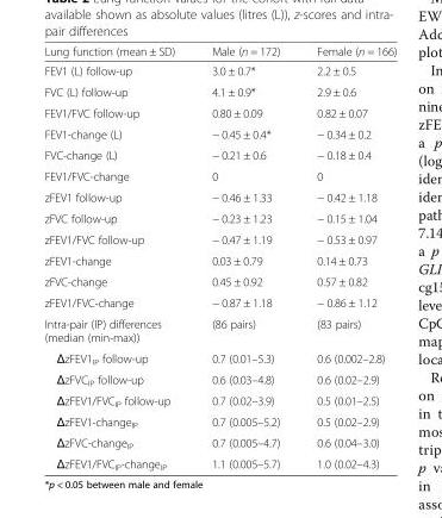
<table><thead><tr><td>Lung function (mean ± SD)</td><td>Male (n = 172)</td><td>Female (n = 166)</td></tr></thead><tbody><tr><td>FEV1 (L) follow-up</td><td>3.0 ± 0.7*</td><td>2.2 ± 0.5</td></tr><tr><td>FVC (L) follow-up</td><td>4.1 ± 0.9*</td><td>2.9 ± 0.6</td></tr><tr><td>FEV1/FVC follow-up</td><td>0.80 ± 0.09</td><td>0.82 ± 0.07</td></tr><tr><td>FEV1-change (L)</td><td>− 0.45 ± 0.4*</td><td>− 0.34 ± 0.2</td></tr><tr><td>FVC-change (L)</td><td>− 0.21 ± 0.6</td><td>− 0.18 ± 0.4</td></tr><tr><td>FEV1/FVC-change</td><td>0</td><td>0</td></tr><tr><td>zFEV1 follow-up</td><td>− 0.46 ± 1.33</td><td>− 0.42 ± 1.18</td></tr><tr><td>zFVC follow-up</td><td>− 0.23 ± 1.23</td><td>− 0.15 ± 1.04</td></tr><tr><td>zFEV1/FVC follow-up</td><td>− 0.47 ± 1.19</td><td>− 0.53 ± 0.97</td></tr><tr><td>zFEV1-change</td><td>0.03 ± 0.79</td><td>0.14 ± 0.73</td></tr><tr><td>zFVC-change</td><td>0.45 ± 0.92</td><td>0.57 ± 0.82</td></tr><tr><td>zFEV1/FVC-change</td><td>− 0.87 ± 1.18</td><td>− 0.86 ± 1.12</td></tr><tr><td>Intra-pair (IP) differences (median (min-max))</td><td>(86 pairs)</td><td>(83 pairs)</td></tr><tr><td>ΔzFEV1<sub>IP</sub> follow-up</td><td>0.7 (0.01–5.3)</td><td>0.6 (0.002–2.8)</td></tr><tr><td>ΔzFVC<sub>IP</sub> follow-up</td><td>0.6 (0.03–4.8)</td><td>0.6 (0.02–2.9)</td></tr><tr><td>ΔzFEV1/FVC<sub>IP</sub> follow-up</td><td>0.7 (0.02–3.9)</td><td>0.5 (0.01–2.5)</td></tr><tr><td>ΔzFEV1-change<sub>IP</sub></td><td>0.7 (0.005–5.2)</td><td>0.5 (0.02–2.9)</td></tr><tr><td>ΔzFVC-change<sub>IP</sub></td><td>0.7 (0.005–4.7)</td><td>0.6 (0.04–3.0)</td></tr><tr><td>ΔzFEV1/FVC<sub>IP</sub>-change<sub>IP</sub></td><td>1.1 (0.005–5.7)</td><td>1.0 (0.02–4.3)</td></tr></tbody></table>